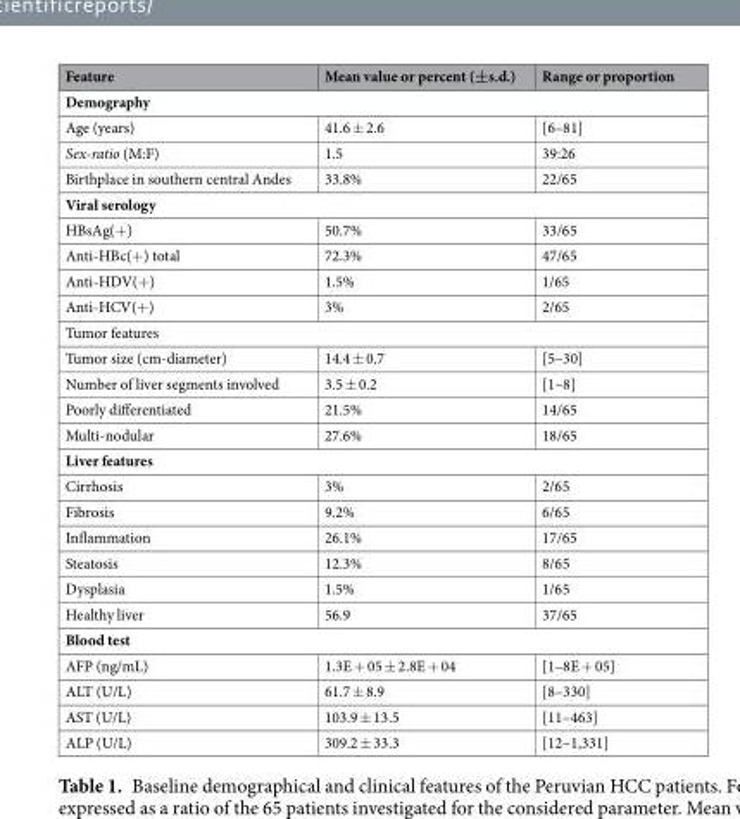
<table><thead><tr><td>Feature</td><td>Mean value or percent (±s.d.)</td><td>Range or proportion</td></tr></thead><tbody><tr><td colspan="3">Demography</td></tr><tr><td>Age (years)</td><td>41.6 ± 2.6</td><td>[6–81]</td></tr><tr><td>Sex-ratio (M:F)</td><td>1.5</td><td>39:26</td></tr><tr><td>Birthplace in southern central Andes</td><td>33.8%</td><td>22/65</td></tr><tr><td colspan="3">Viral serology</td></tr><tr><td>HBsAg(+)</td><td>50.7%</td><td>33/65</td></tr><tr><td>Anti-HBc(+) total</td><td>72.3%</td><td>47/65</td></tr><tr><td>Anti-HDV(+)</td><td>1.5%</td><td>1/65</td></tr><tr><td>Anti-HCV(+)</td><td>3%</td><td>2/65</td></tr><tr><td colspan="3">Tumor features</td></tr><tr><td>Tumor size (cm-diameter)</td><td>14.4 ± 0.7</td><td>[5–30]</td></tr><tr><td>Number of liver segments involved</td><td>3.5 ± 0.2</td><td>[1–8]</td></tr><tr><td>Poorly differentiated</td><td>21.5%</td><td>14/65</td></tr><tr><td>Multi-nodular</td><td>27.6%</td><td>18/65</td></tr><tr><td colspan="3">Liver features</td></tr><tr><td>Cirrhosis</td><td>3%</td><td>2/65</td></tr><tr><td>Fibrosis</td><td>9.2%</td><td>6/65</td></tr><tr><td>Inflammation</td><td>26.1%</td><td>17/65</td></tr><tr><td>Steatosis</td><td>12.3%</td><td>8/65</td></tr><tr><td>Dysplasia</td><td>1.5%</td><td>1/65</td></tr><tr><td>Healthy liver</td><td>56.9</td><td>37/65</td></tr><tr><td colspan="3">Blood test</td></tr><tr><td>AFP (ng/mL)</td><td>1.3E + 05 ± 2.8E + 04</td><td>[1–8E + 05]</td></tr><tr><td>ALT (U/L)</td><td>61.7 ± 8.9</td><td>[8–330]</td></tr><tr><td>AST (U/L)</td><td>103.9 ± 13.5</td><td>[11–463]</td></tr><tr><td>ALP (U/L)</td><td>309.2 ± 33.3</td><td>[12–1,331]</td></tr></tbody></table>